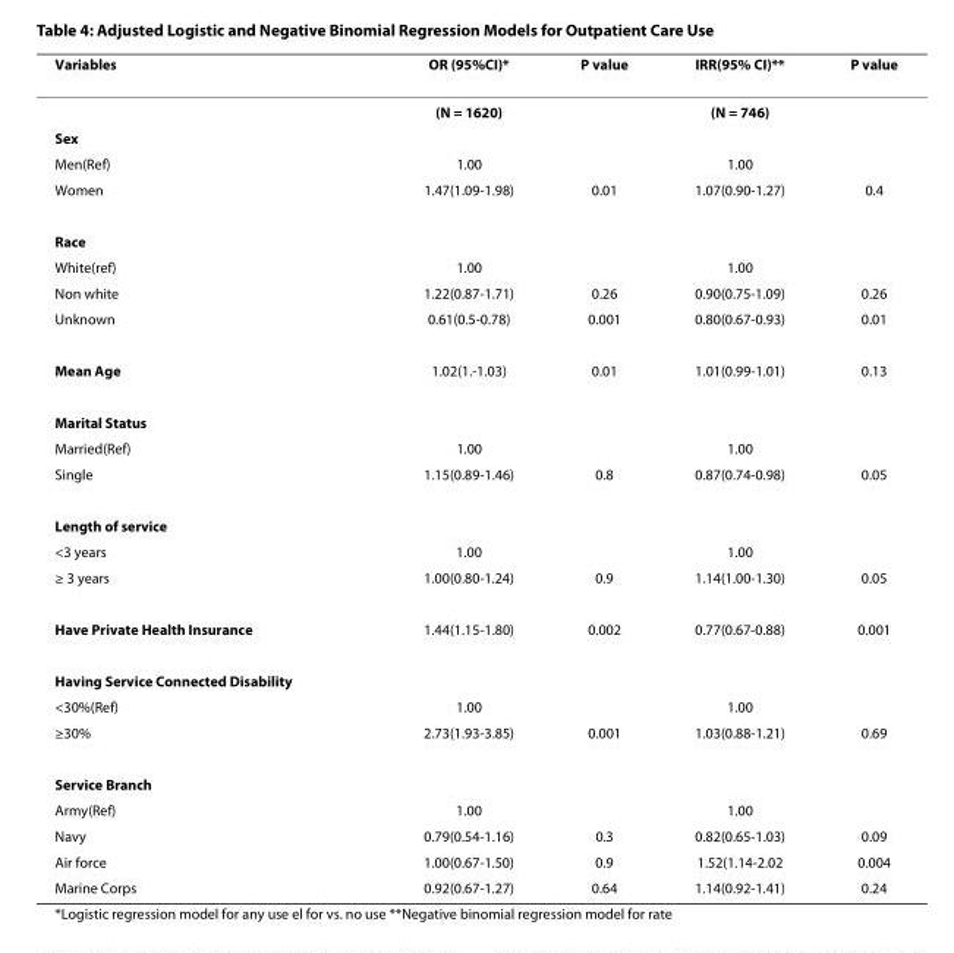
<table><thead><tr><td>Variables</td><td>OR (95%CI)*</td><td>P value</td><td>IRR(95% CI)**</td><td>P value</td></tr></thead><tbody><tr><td></td><td>(N = 1620)</td><td></td><td>(N = 746)</td><td></td></tr><tr><td colspan="5">Sex</td></tr><tr><td>Men(Ref)</td><td>1.00</td><td></td><td>1.00</td><td></td></tr><tr><td>Women</td><td>1.47(1.09-1.98)</td><td>0.01</td><td>1.07(0.90-1.27)</td><td>0.4</td></tr><tr><td colspan="5">Race</td></tr><tr><td>White(ref)</td><td>1.00</td><td></td><td>1.00</td><td></td></tr><tr><td>Non white</td><td>1.22(0.87-1.71)</td><td>0.26</td><td>0.90(0.75-1.09)</td><td>0.26</td></tr><tr><td>Unknown</td><td>0.61(0.5-0.78)</td><td>0.001</td><td>0.80(0.67-0.93)</td><td>0.01</td></tr><tr><td>Mean Age</td><td>1.02(1.-1.03)</td><td>0.01</td><td>1.01(0.99-1.01)</td><td>0.13</td></tr><tr><td colspan="5">Marital Status</td></tr><tr><td>Married(Ref)</td><td>1.00</td><td></td><td>1.00</td><td></td></tr><tr><td>Single</td><td>1.15(0.89-1.46)</td><td>0.8</td><td>0.87(0.74-0.98)</td><td>0.05</td></tr><tr><td colspan="5">Length of service</td></tr><tr><td>&lt;3 years</td><td>1.00</td><td></td><td>1.00</td><td></td></tr><tr><td>≥ 3 years</td><td>1.00(0.80-1.24)</td><td>0.9</td><td>1.14(1.00-1.30)</td><td>0.05</td></tr><tr><td>Have Private Health Insurance</td><td>1.44(1.15-1.80)</td><td>0.002</td><td>0.77(0.67-0.88)</td><td>0.001</td></tr><tr><td colspan="5">Having Service Connected Disability</td></tr><tr><td>&lt;30%(Ref)</td><td>1.00</td><td></td><td>1.00</td><td></td></tr><tr><td>≥30%</td><td>2.73(1.93-3.85)</td><td>0.001</td><td>1.03(0.88-1.21)</td><td>0.69</td></tr><tr><td colspan="5">Service Branch</td></tr><tr><td>Army(Ref)</td><td>1.00</td><td></td><td>1.00</td><td></td></tr><tr><td>Navy</td><td>0.79(0.54-1.16)</td><td>0.3</td><td>0.82(0.65-1.03)</td><td>0.09</td></tr><tr><td>Air force</td><td>1.00(0.67-1.50)</td><td>0.9</td><td>1.52(1.14-2.02</td><td>0.004</td></tr><tr><td>Marine Corps</td><td>0.92(0.67-1.27)</td><td>0.64</td><td>1.14(0.92-1.41)</td><td>0.24</td></tr></tbody></table>